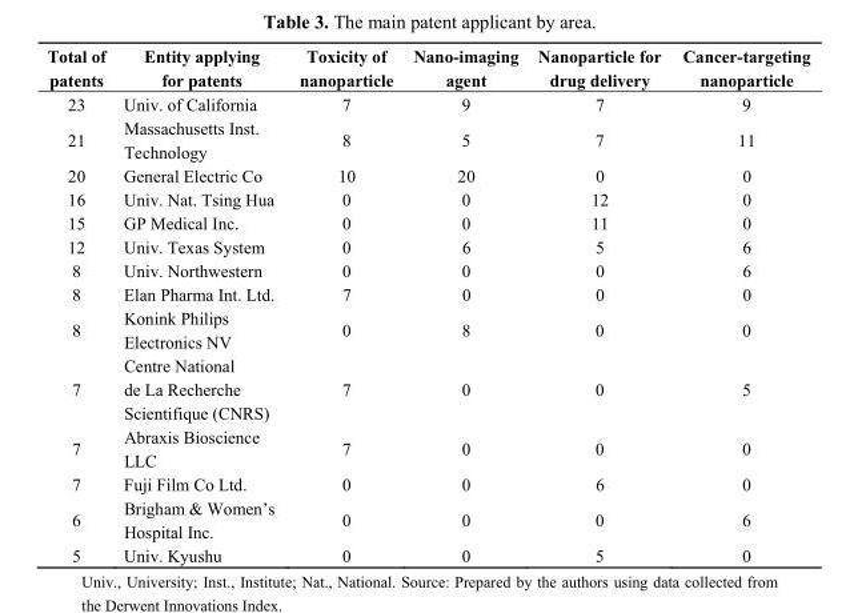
<table><thead><tr><td>Total of patents</td><td>Entity applying for patents</td><td>Toxicity of nanoparticle</td><td>Nano-imaging agent</td><td>Nanoparticle for drug delivery</td><td>Cancer-targeting nanoparticle</td></tr></thead><tbody><tr><td>23</td><td>Univ. of California</td><td>7</td><td>9</td><td>7</td><td>9</td></tr><tr><td>21</td><td>Massachusetts Inst. Technology</td><td>8</td><td>5</td><td>7</td><td>11</td></tr><tr><td>20</td><td>General Electric Co</td><td>10</td><td>20</td><td>0</td><td>0</td></tr><tr><td>16</td><td>Univ. Nat. Tsing Hua</td><td>0</td><td>0</td><td>12</td><td>0</td></tr><tr><td>15</td><td>GP Medical Inc.</td><td>0</td><td>0</td><td>11</td><td>0</td></tr><tr><td>12</td><td>Univ. Texas System</td><td>0</td><td>6</td><td>5</td><td>6</td></tr><tr><td>8</td><td>Univ. Northwestern</td><td>0</td><td>0</td><td>0</td><td>6</td></tr><tr><td>8</td><td>Elan Pharma Int. Ltd.</td><td>7</td><td>0</td><td>0</td><td>0</td></tr><tr><td>8</td><td>Konink Philips Electronics NV</td><td>0</td><td>8</td><td>0</td><td>0</td></tr><tr><td>7</td><td>Centre National de La Recherche Scientifique (CNRS)</td><td>7</td><td>0</td><td>0</td><td>5</td></tr><tr><td>7</td><td>Abraxis Bioscience LLC</td><td>7</td><td>0</td><td>0</td><td>0</td></tr><tr><td>7</td><td>Fuji Film Co Ltd.</td><td>0</td><td>0</td><td>6</td><td>0</td></tr><tr><td>6</td><td>Brigham &amp; Women’s Hospital Inc.</td><td>0</td><td>0</td><td>0</td><td>6</td></tr><tr><td>5</td><td>Univ. Kyushu</td><td>0</td><td>0</td><td>5</td><td>0</td></tr></tbody></table>